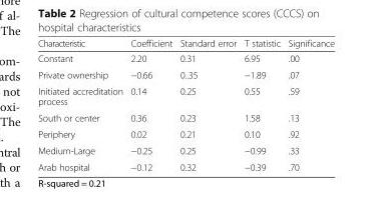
<table><thead><tr><td>Characteristic</td><td>Coefficient</td><td>Standard error</td><td>T statistic</td><td>Significance</td></tr></thead><tbody><tr><td>Constant</td><td>2.20</td><td>0.31</td><td>6.95</td><td>.00</td></tr><tr><td>Private ownership</td><td>−0.66</td><td>0..35</td><td>−1.89</td><td>.07</td></tr><tr><td>Initiated accreditation process</td><td>0.14</td><td>0.25</td><td>0.55</td><td>.59</td></tr><tr><td>South or center</td><td>0.36</td><td>0.23</td><td>1.58</td><td>.13</td></tr><tr><td>Periphery</td><td>0.02</td><td>0.21</td><td>0.10</td><td>.92</td></tr><tr><td>Medium-Large</td><td>−0.25</td><td>0.25</td><td>−0.99</td><td>.33</td></tr><tr><td>Arab hospital</td><td>−0.12</td><td>0.32</td><td>−0.39</td><td>.70</td></tr></tbody></table>